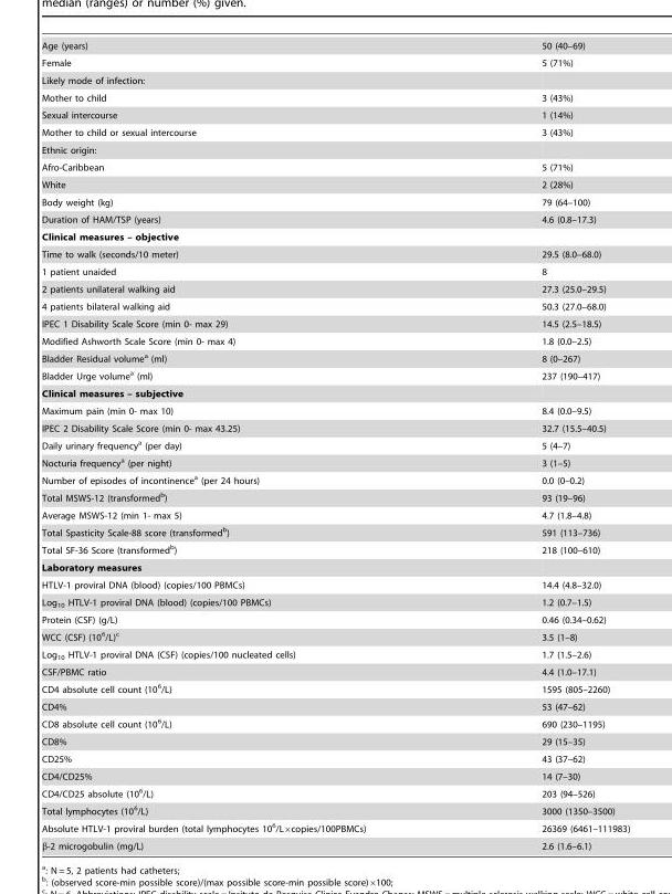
<table><tbody><tr><td>Age (years)</td><td>50 (40–69)</td></tr><tr><td>Female</td><td>5 (71%)</td></tr><tr><td colspan="2">Likely mode of infection:</td></tr><tr><td>Mother to child</td><td>3 (43%)</td></tr><tr><td>Sexual intercourse</td><td>1 (14%)</td></tr><tr><td>Mother to child or sexual intercourse</td><td>3 (43%)</td></tr><tr><td colspan="2">Ethnic origin:</td></tr><tr><td>Afro-Caribbean</td><td>5 (71%)</td></tr><tr><td>White</td><td>2 (28%)</td></tr><tr><td>Body weight (kg)</td><td>79 (64–100)</td></tr><tr><td>Duration of HAM/TSP (years)</td><td>4.6 (0.8–17.3)</td></tr><tr><td colspan="2">Clinical measures – objective</td></tr><tr><td>Time to walk (seconds/10 meter)</td><td>29.5 (8.0–68.0)</td></tr><tr><td>1 patient unaided</td><td>8</td></tr><tr><td>2 patients unilateral walking aid</td><td>27.3 (25.0–29.5)</td></tr><tr><td>4 patients bilateral walking aid</td><td>50.3 (27.0–68.0)</td></tr><tr><td>IPEC 1 Disability Scale Score (min 0- max 29)</td><td>14.5 (2.5–18.5)</td></tr><tr><td>Modified Ashworth Scale Score (min 0- max 4)</td><td>1.8 (0.0–2.5)</td></tr><tr><td>Bladder Residual volume<sup>a</sup> (ml)</td><td>8 (0–267)</td></tr><tr><td>Bladder Urge volume<sup>a</sup> (ml)</td><td>237 (190–417)</td></tr><tr><td colspan="2">Clinical measures – subjective</td></tr><tr><td>Maximum pain (min 0- max 10)</td><td>8.4 (0.0–9.5)</td></tr><tr><td>IPEC 2 Disability Scale Score (min 0- max 43.25)</td><td>32.7 (15.5–40.5)</td></tr><tr><td>Daily urinary frequency<sup>a</sup> (per day)</td><td>5 (4–7)</td></tr><tr><td>Nocturia frequency<sup>a</sup> (per night)</td><td>3 (1–5)</td></tr><tr><td>Number of episodes of incontinence<sup>a</sup> (per 24 hours)</td><td>0.0 (0–0.2)</td></tr><tr><td>Total MSWS-12 (transformed<sup>b</sup>)</td><td>93 (19–96)</td></tr><tr><td>Average MSWS-12 (min 1- max 5)</td><td>4.7 (1.8–4.8)</td></tr><tr><td>Total Spasticity Scale-88 score (transformed<sup>b</sup>)</td><td>591 (113–736)</td></tr><tr><td>Total SF-36 Score (transformed<sup>b</sup>)</td><td>218 (100–610)</td></tr><tr><td colspan="2">Laboratory measures</td></tr><tr><td>HTLV-1 proviral DNA (blood) (copies/100 PBMCs)</td><td>14.4 (4.8–32.0)</td></tr><tr><td>Log<sub>10</sub> HTLV-1 proviral DNA (blood) (copies/100 PBMCs)</td><td>1.2 (0.7–1.5)</td></tr><tr><td>Protein (CSF) (g/L)</td><td>0.46 (0.34–0.62)</td></tr><tr><td>WCC (CSF) (10<sup>6</sup>/L)<sup>c</sup></td><td>3.5 (1–8)</td></tr><tr><td>Log<sub>10</sub> HTLV-1 proviral DNA (CSF) (copies/100 nucleated cells)</td><td>1.7 (1.5–2.6)</td></tr><tr><td>CSF/PBMC ratio</td><td>4.4 (1.0–17.1)</td></tr><tr><td>CD4 absolute cell count (10<sup>6</sup>/L)</td><td>1595 (805–2260)</td></tr><tr><td>CD4%</td><td>53 (47–62)</td></tr><tr><td>CD8 absolute cell count (10<sup>6</sup>/L)</td><td>690 (230–1195)</td></tr><tr><td>CD8%</td><td>29 (15–35)</td></tr><tr><td>CD25%</td><td>43 (37–62)</td></tr><tr><td>CD4/CD25%</td><td>14 (7–30)</td></tr><tr><td>CD4/CD25 absolute (10<sup>6</sup>/L)</td><td>203 (94–526)</td></tr><tr><td>Total lymphocytes (10<sup>6</sup>/L)</td><td>3000 (1350–3500)</td></tr><tr><td>Absolute HTLV-1 proviral burden (total lymphocytes 10<sup>6</sup>/L×copies/100PBMCs)</td><td>26369 (6461–111983)</td></tr><tr><td>β-2 microgobulin (mg/L)</td><td>2.6 (1.6–6.1)</td></tr></tbody></table>